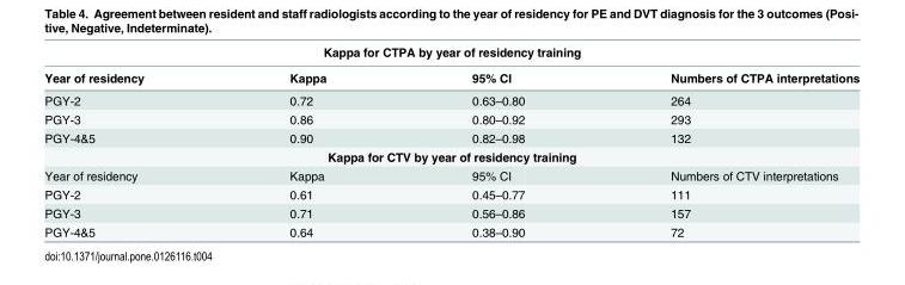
<table><thead><tr><td colspan="4">Kappa for CTPA by year of residency training</td></tr><tr><td>Year of residency</td><td>Kappa</td><td>95% CI</td><td>Numbers of CTPA interpretations</td></tr></thead><tbody><tr><td>PGY-2</td><td>0.72</td><td>0.63–0.80</td><td>264</td></tr><tr><td>PGY-3</td><td>0.86</td><td>0.80–0.92</td><td>293</td></tr><tr><td>PGY-4&amp;5</td><td>0.90</td><td>0.82–0.98</td><td>132</td></tr><tr><td colspan="4">Kappa for CTV by year of residency training</td></tr><tr><td>Year of residency</td><td>Kappa</td><td>95% CI</td><td>Numbers of CTV interpretations</td></tr><tr><td>PGY-2</td><td>0.61</td><td>0.45–0.77</td><td>111</td></tr><tr><td>PGY-3</td><td>0.71</td><td>0.56–0.86</td><td>157</td></tr><tr><td>PGY-4&amp;5</td><td>0.64</td><td>0.38–0.90</td><td>72</td></tr></tbody></table>